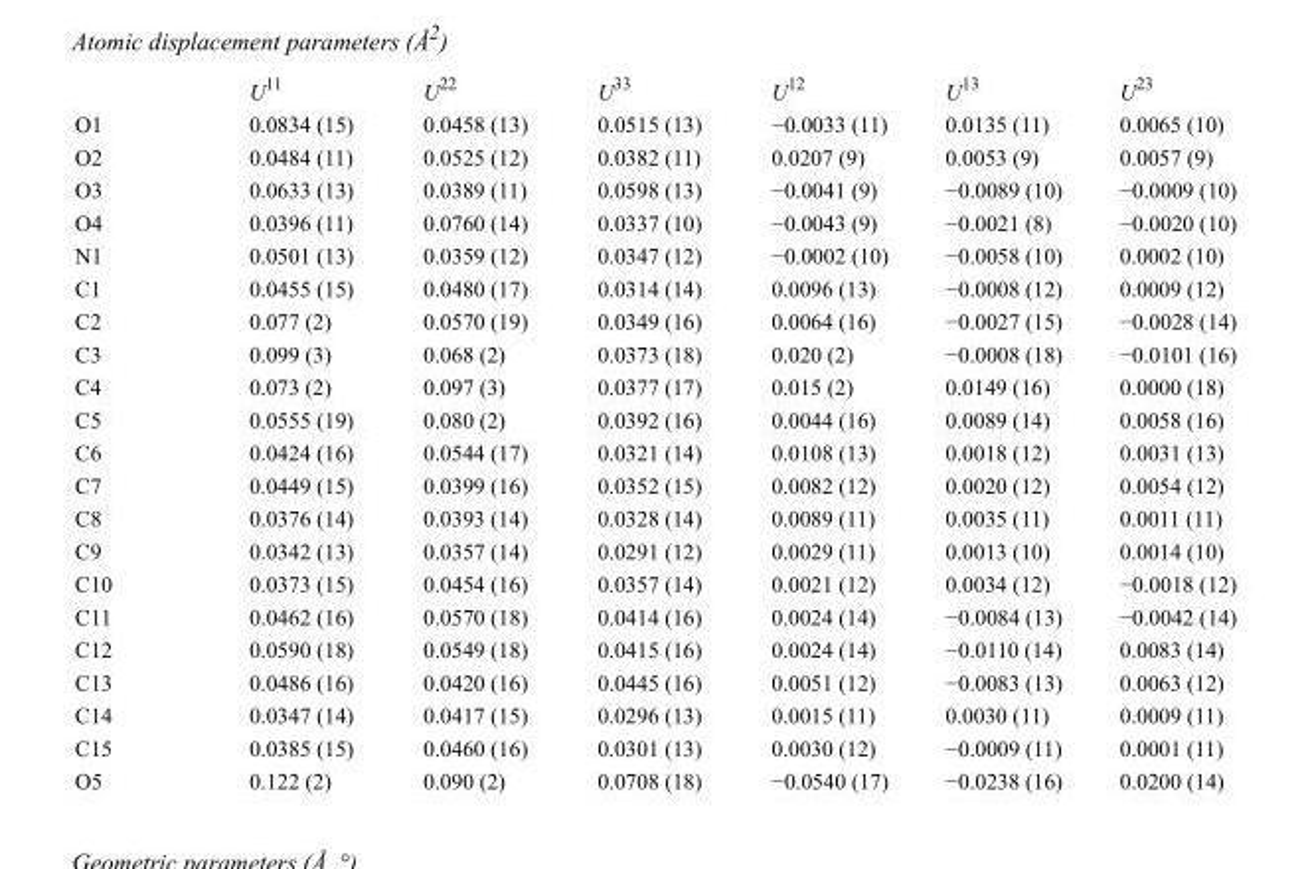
<table><thead><tr><td></td><td>U<sup>11</sup></td><td>U<sup>22</sup></td><td>U<sup>33</sup></td><td>U<sup>12</sup></td><td>U<sup>13</sup></td><td>U<sup>23</sup></td></tr></thead><tbody><tr><td>O1</td><td>0.0834 (15)</td><td>0.0458 (13)</td><td>0.0515 (13)</td><td>−0.0033 (11)</td><td>0.0135 (11)</td><td>0.0065 (10)</td></tr><tr><td>O2</td><td>0.0484 (11)</td><td>0.0525 (12)</td><td>0.0382 (11)</td><td>0.0207 (9)</td><td>0.0053 (9)</td><td>0.0057 (9)</td></tr><tr><td>O3</td><td>0.0633 (13)</td><td>0.0389 (11)</td><td>0.0598 (13)</td><td>−0.0041 (9)</td><td>−0.0089 (10)</td><td>−0.0009 (10)</td></tr><tr><td>O4</td><td>0.0396 (11)</td><td>0.0760 (14)</td><td>0.0337 (10)</td><td>−0.0043 (9)</td><td>−0.0021 (8)</td><td>−0.0020 (10)</td></tr><tr><td>N1</td><td>0.0501 (13)</td><td>0.0359 (12)</td><td>0.0347 (12)</td><td>−0.0002 (10)</td><td>−0.0058 (10)</td><td>0.0002 (10)</td></tr><tr><td>C1</td><td>0.0455 (15)</td><td>0.0480 (17)</td><td>0.0314 (14)</td><td>0.0096 (13)</td><td>−0.0008 (12)</td><td>0.0009 (12)</td></tr><tr><td>C2</td><td>0.077 (2)</td><td>0.0570 (19)</td><td>0.0349 (16)</td><td>0.0064 (16)</td><td>−0.0027 (15)</td><td>−0.0028 (14)</td></tr><tr><td>C3</td><td>0.099 (3)</td><td>0.068 (2)</td><td>0.0373 (18)</td><td>0.020 (2)</td><td>−0.0008 (18)</td><td>−0.0101 (16)</td></tr><tr><td>C4</td><td>0.073 (2)</td><td>0.097 (3)</td><td>0.0377 (17)</td><td>0.015 (2)</td><td>0.0149 (16)</td><td>0.0000 (18)</td></tr><tr><td>C5</td><td>0.0555 (19)</td><td>0.080 (2)</td><td>0.0392 (16)</td><td>0.0044 (16)</td><td>0.0089 (14)</td><td>0.0058 (16)</td></tr><tr><td>C6</td><td>0.0424 (16)</td><td>0.0544 (17)</td><td>0.0321 (14)</td><td>0.0108 (13)</td><td>0.0018 (12)</td><td>0.0031 (13)</td></tr><tr><td>C7</td><td>0.0449 (15)</td><td>0.0399 (16)</td><td>0.0352 (15)</td><td>0.0082 (12)</td><td>0.0020 (12)</td><td>0.0054 (12)</td></tr><tr><td>C8</td><td>0.0376 (14)</td><td>0.0393 (14)</td><td>0.0328 (14)</td><td>0.0089 (11)</td><td>0.0035 (11)</td><td>0.0011 (11)</td></tr><tr><td>C9</td><td>0.0342 (13)</td><td>0.0357 (14)</td><td>0.0291 (12)</td><td>0.0029 (11)</td><td>0.0013 (10)</td><td>0.0014 (10)</td></tr><tr><td>C10</td><td>0.0373 (15)</td><td>0.0454 (16)</td><td>0.0357 (14)</td><td>0.0021 (12)</td><td>0.0034 (12)</td><td>−0.0018 (12)</td></tr><tr><td>C11</td><td>0.0462 (16)</td><td>0.0570 (18)</td><td>0.0414 (16)</td><td>0.0024 (14)</td><td>−0.0084 (13)</td><td>−0.0042 (14)</td></tr><tr><td>C12</td><td>0.0590 (18)</td><td>0.0549 (18)</td><td>0.0415 (16)</td><td>0.0024 (14)</td><td>−0.0110 (14)</td><td>0.0083 (14)</td></tr><tr><td>C13</td><td>0.0486 (16)</td><td>0.0420 (16)</td><td>0.0445 (16)</td><td>0.0051 (12)</td><td>−0.0083 (13)</td><td>0.0063 (12)</td></tr><tr><td>C14</td><td>0.0347 (14)</td><td>0.0417 (15)</td><td>0.0296 (13)</td><td>0.0015 (11)</td><td>0.0030 (11)</td><td>0.0009 (11)</td></tr><tr><td>C15</td><td>0.0385 (15)</td><td>0.0460 (16)</td><td>0.0301 (13)</td><td>0.0030 (12)</td><td>−0.0009 (11)</td><td>0.0001 (11)</td></tr><tr><td>O5</td><td>0.122 (2)</td><td>0.090 (2)</td><td>0.0708 (18)</td><td>−0.0540 (17)</td><td>−0.0238 (16)</td><td>0.0200 (14)</td></tr></tbody></table>